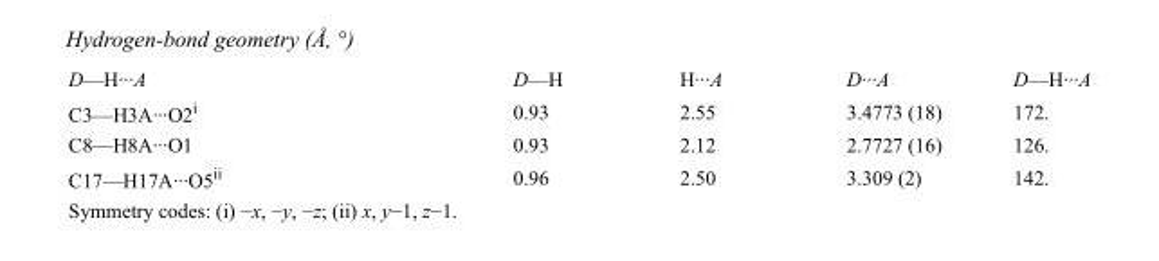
<table><tbody><tr><td>D—H···A</td><td>D—H</td><td>H···A</td><td>D···A</td><td>D—H···A</td></tr><tr><td>C3—H3A···O2<sup>i</sup></td><td>0.93</td><td>2.55</td><td>3.4773 (18)</td><td>172.</td></tr><tr><td>C8—H8A···O1</td><td>0.93</td><td>2.12</td><td>2.7727 (16)</td><td>126.</td></tr><tr><td>C17—H17A···O5<sup>ii</sup></td><td>0.96</td><td>2.50</td><td>3.309 (2)</td><td>142.</td></tr></tbody></table>